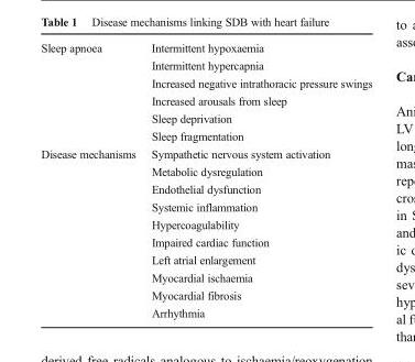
<table><tbody><tr><td rowspan="6">Sleep apnoea</td><td>Intermittent hypoxaemia</td></tr><tr><td>Intermittent hypercapnia</td></tr><tr><td>Increased negative intrathoracic pressure swings</td></tr><tr><td>Increased arousals from sleep</td></tr><tr><td>Sleep deprivation</td></tr><tr><td>Sleep fragmentation</td></tr><tr><td rowspan="10">Disease mechanisms</td><td>Sympathetic nervous system activation</td></tr><tr><td>Metabolic dysregulation</td></tr><tr><td>Endothelial dysfunction</td></tr><tr><td>Systemic inflammation</td></tr><tr><td>Hypercoagulability</td></tr><tr><td>Impaired cardiac function</td></tr><tr><td>Left atrial enlargement</td></tr><tr><td>Myocardial ischaemia</td></tr><tr><td>Myocardial fibrosis</td></tr><tr><td>Arrhythmia</td></tr></tbody></table>